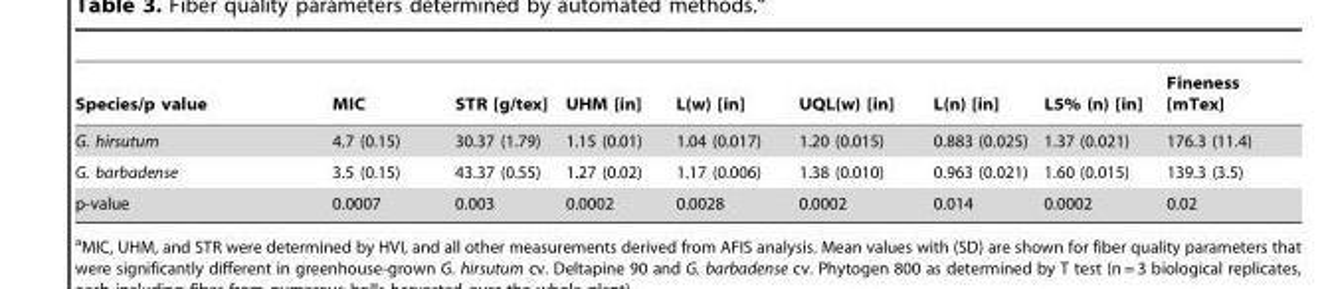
<table><thead><tr><td>Species/p value</td><td>MIC</td><td>STR [g/tex]</td><td>UHM [in]</td><td>L(w) [in]</td><td>UQL(w) [in]</td><td>L(n) [in]</td><td>L5% (n) [in]</td><td>Fineness [mTex]</td></tr></thead><tbody><tr><td>G. hirsutum</td><td>4.7 (0.15)</td><td>30.37 (1.79)</td><td>1.15 (0.01)</td><td>1.04 (0.017)</td><td>1.20 (0.015)</td><td>0.883 (0.025)</td><td>1.37 (0.021)</td><td>176.3 (11.4)</td></tr><tr><td>G. barbadense</td><td>3.5 (0.15)</td><td>43.37 (0.55)</td><td>1.27 (0.02)</td><td>1.17 (0.006)</td><td>1.38 (0.010)</td><td>0.963 (0.021)</td><td>1.60 (0.015)</td><td>139.3 (3.5)</td></tr><tr><td>p-value</td><td>0.0007</td><td>0.003</td><td>0.0002</td><td>0.0028</td><td>0.0002</td><td>0.014</td><td>0.0002</td><td>0.02</td></tr></tbody></table>